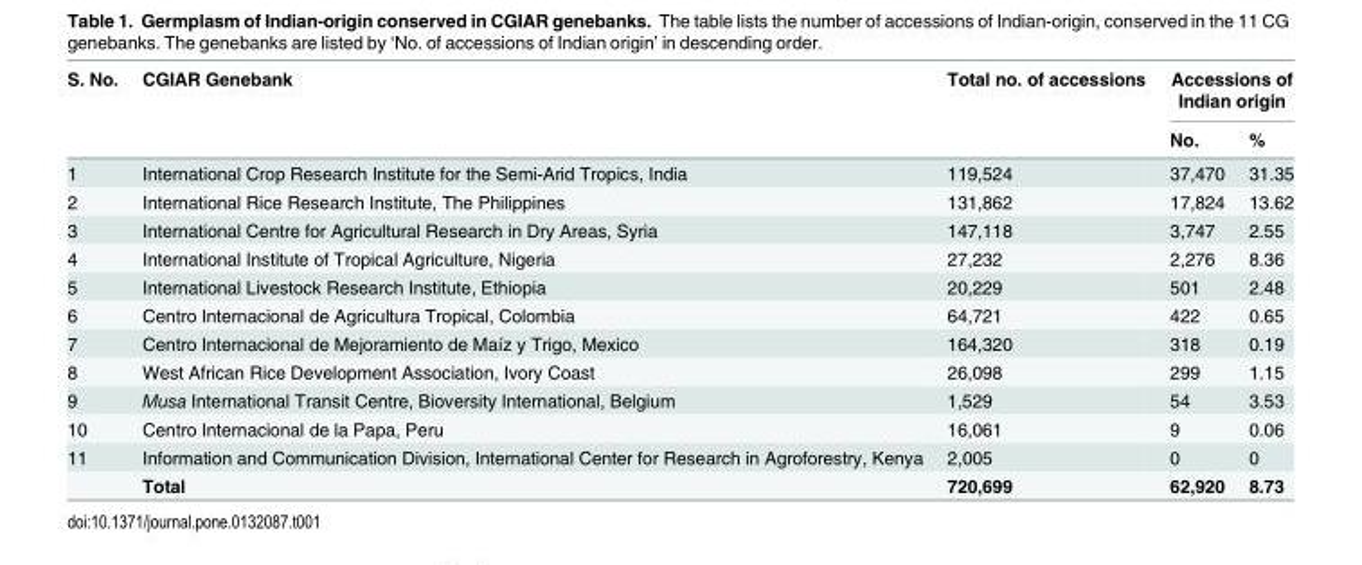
<table><thead><tr><td rowspan="2">S. No.</td><td rowspan="2">CGIAR Genebank</td><td rowspan="2">Total no. of accessions</td><td colspan="2">Accessions of Indian origin</td></tr><tr><td>No.</td><td>%</td></tr></thead><tbody><tr><td>1</td><td>International Crop Research Institute for the Semi-Arid Tropics, India</td><td>119,524</td><td>37,470</td><td>31.35</td></tr><tr><td>2</td><td>International Rice Research Institute, The Philippines</td><td>131,862</td><td>17,824</td><td>13.62</td></tr><tr><td>3</td><td>International Centre for Agricultural Research in Dry Areas, Syria</td><td>147,118</td><td>3,747</td><td>2.55</td></tr><tr><td>4</td><td>International Institute of Tropical Agriculture, Nigeria</td><td>27,232</td><td>2,276</td><td>8.36</td></tr><tr><td>5</td><td>International Livestock Research Institute, Ethiopia</td><td>20,229</td><td>501</td><td>2.48</td></tr><tr><td>6</td><td>Centro Internacional de Agricultura Tropical, Colombia</td><td>64,721</td><td>422</td><td>0.65</td></tr><tr><td>7</td><td>Centro Internacional de Mejoramiento de Maíz y Trigo, Mexico</td><td>164,320</td><td>318</td><td>0.19</td></tr><tr><td>8</td><td>West African Rice Development Association, Ivory Coast</td><td>26,098</td><td>299</td><td>1.15</td></tr><tr><td>9</td><td>Musa International Transit Centre, Bioversity International, Belgium</td><td>1,529</td><td>54</td><td>3.53</td></tr><tr><td>10</td><td>Centro Internacional de la Papa, Peru</td><td>16,061</td><td>9</td><td>0.06</td></tr><tr><td rowspan="2">11</td><td>Information and Communication Division, International Center for Research in Agroforestry, Kenya</td><td>2,005</td><td>0</td><td>0</td></tr><tr><td>Total</td><td>720,699</td><td>62,920</td><td>8.73</td></tr></tbody></table>